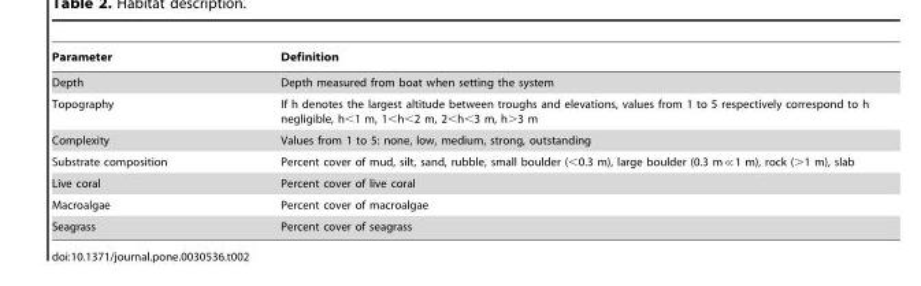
<table><thead><tr><td>Parameter</td><td>Definition</td></tr></thead><tbody><tr><td>Depth</td><td>Depth measured from boat when setting the system</td></tr><tr><td>Topography</td><td>If h denotes the largest altitude between troughs and elevations, values from 1 to 5 respectively correspond to h negligible, h&lt;1 m, 1&lt;h&lt;2 m, 2&lt;h&lt;3 m, h&gt;3 m</td></tr><tr><td>Complexity</td><td>Values from 1 to 5: none, low, medium, strong, outstanding</td></tr><tr><td>Substrate composition</td><td>Percent cover of mud, silt, sand, rubble, small boulder (&lt;0.3 m), large boulder (0.3 m≪1 m), rock (&gt;1 m), slab</td></tr><tr><td>Live coral</td><td>Percent cover of live coral</td></tr><tr><td>Macroalgae</td><td>Percent cover of macroalgae</td></tr><tr><td>Seagrass</td><td>Percent cover of seagrass</td></tr></tbody></table>